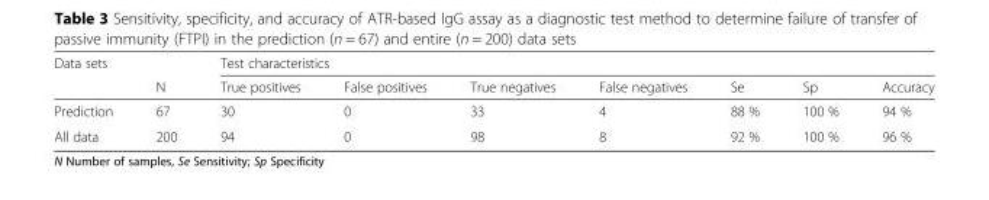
<table><thead><tr><td rowspan="2">Data sets</td><td rowspan="2">N</td><td colspan="7">Test characteristics</td></tr><tr><td>True positives</td><td>False positives</td><td>True negatives</td><td>False negatives</td><td>Se</td><td>Sp</td><td>Accuracy</td></tr></thead><tbody><tr><td>Prediction</td><td>67</td><td>30</td><td>0</td><td>33</td><td>4</td><td>88 %</td><td>100 %</td><td>94 %</td></tr><tr><td>All data</td><td>200</td><td>94</td><td>0</td><td>98</td><td>8</td><td>92 %</td><td>100 %</td><td>96 %</td></tr></tbody></table>